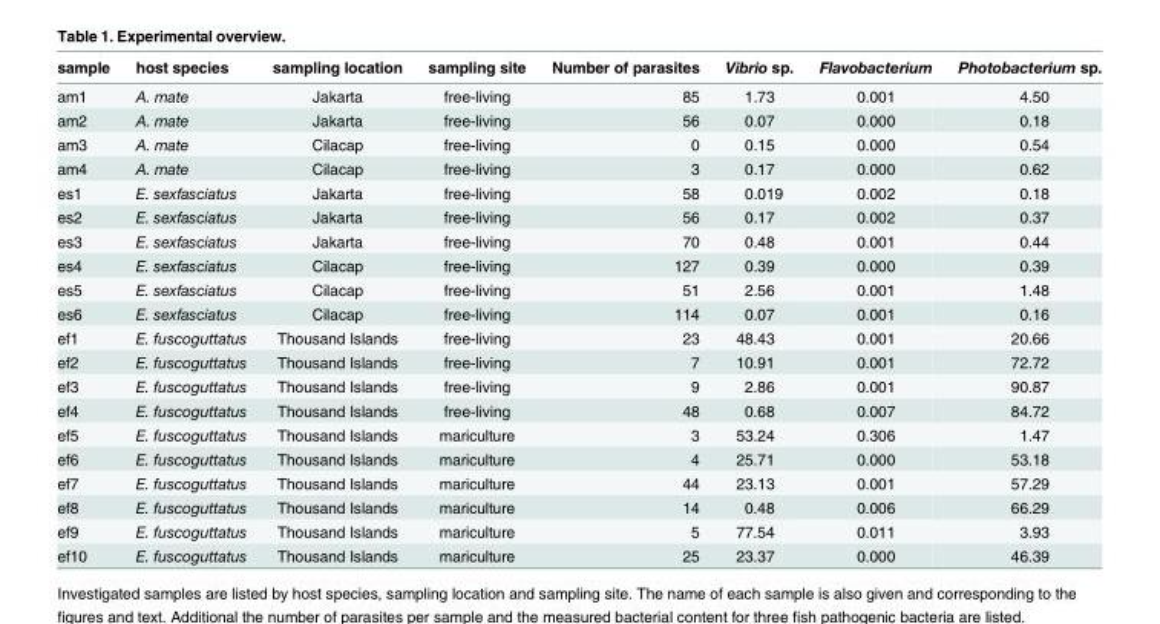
<table><thead><tr><td>sample</td><td>host species</td><td>sampling location</td><td>sampling site</td><td>Number of parasites</td><td>Vibrio sp.</td><td>Flavobacterium</td><td>Photobacterium sp.</td></tr></thead><tbody><tr><td>am1</td><td>A. mate</td><td>Jakarta</td><td>free-living</td><td>85</td><td>1.73</td><td>0.001</td><td>4.50</td></tr><tr><td>am2</td><td>A. mate</td><td>Jakarta</td><td>free-living</td><td>56</td><td>0.07</td><td>0.000</td><td>0.18</td></tr><tr><td>am3</td><td>A. mate</td><td>Cilacap</td><td>free-living</td><td>0</td><td>0.15</td><td>0.000</td><td>0.54</td></tr><tr><td>am4</td><td>A. mate</td><td>Cilacap</td><td>free-living</td><td>3</td><td>0.17</td><td>0.000</td><td>0.62</td></tr><tr><td>es1</td><td>E. sexfasciatus</td><td>Jakarta</td><td>free-living</td><td>58</td><td>0.019</td><td>0.002</td><td>0.18</td></tr><tr><td>es2</td><td>E. sexfasciatus</td><td>Jakarta</td><td>free-living</td><td>56</td><td>0.17</td><td>0.002</td><td>0.37</td></tr><tr><td>es3</td><td>E. sexfasciatus</td><td>Jakarta</td><td>free-living</td><td>70</td><td>0.48</td><td>0.001</td><td>0.44</td></tr><tr><td>es4</td><td>E. sexfasciatus</td><td>Cilacap</td><td>free-living</td><td>127</td><td>0.39</td><td>0.000</td><td>0.39</td></tr><tr><td>es5</td><td>E. sexfasciatus</td><td>Cilacap</td><td>free-living</td><td>51</td><td>2.56</td><td>0.001</td><td>1.48</td></tr><tr><td>es6</td><td>E. sexfasciatus</td><td>Cilacap</td><td>free-living</td><td>114</td><td>0.07</td><td>0.001</td><td>0.16</td></tr><tr><td>ef1</td><td>E. fuscoguttatus</td><td>Thousand Islands</td><td>free-living</td><td>23</td><td>48.43</td><td>0.001</td><td>20.66</td></tr><tr><td>ef2</td><td>E. fuscoguttatus</td><td>Thousand Islands</td><td>free-living</td><td>7</td><td>10.91</td><td>0.001</td><td>72.72</td></tr><tr><td>ef3</td><td>E. fuscoguttatus</td><td>Thousand Islands</td><td>free-living</td><td>9</td><td>2.86</td><td>0.001</td><td>90.87</td></tr><tr><td>ef4</td><td>E. fuscoguttatus</td><td>Thousand Islands</td><td>free-living</td><td>48</td><td>0.68</td><td>0.007</td><td>84.72</td></tr><tr><td>ef5</td><td>E. fuscoguttatus</td><td>Thousand Islands</td><td>mariculture</td><td>3</td><td>53.24</td><td>0.306</td><td>1.47</td></tr><tr><td>ef6</td><td>E. fuscoguttatus</td><td>Thousand Islands</td><td>mariculture</td><td>4</td><td>25.71</td><td>0.000</td><td>53.18</td></tr><tr><td>ef7</td><td>E. fuscoguttatus</td><td>Thousand Islands</td><td>mariculture</td><td>44</td><td>23.13</td><td>0.001</td><td>57.29</td></tr><tr><td>ef8</td><td>E. fuscoguttatus</td><td>Thousand Islands</td><td>mariculture</td><td>14</td><td>0.48</td><td>0.006</td><td>66.29</td></tr><tr><td>ef9</td><td>E. fuscoguttatus</td><td>Thousand Islands</td><td>mariculture</td><td>5</td><td>77.54</td><td>0.011</td><td>3.93</td></tr><tr><td>ef10</td><td>E. fuscoguttatus</td><td>Thousand Islands</td><td>mariculture</td><td>25</td><td>23.37</td><td>0.000</td><td>46.39</td></tr></tbody></table>